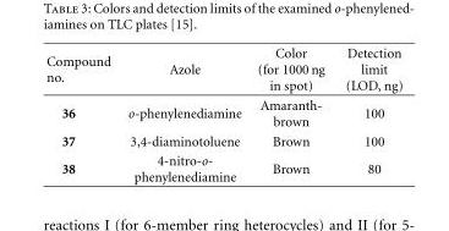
<table><thead><tr><td>Compound no.</td><td>Azole</td><td>Color (for 1000 ng in spot)</td><td>Detection limit (LOD, ng)</td></tr></thead><tbody><tr><td>36</td><td>o-phenylenediamine</td><td>Amaranth- brown</td><td>100</td></tr><tr><td>37</td><td>3,4-diaminotoluene</td><td>Brown</td><td>100</td></tr><tr><td>38</td><td>4-nitro-o- phenylenediamine</td><td>Brown</td><td>80</td></tr></tbody></table>